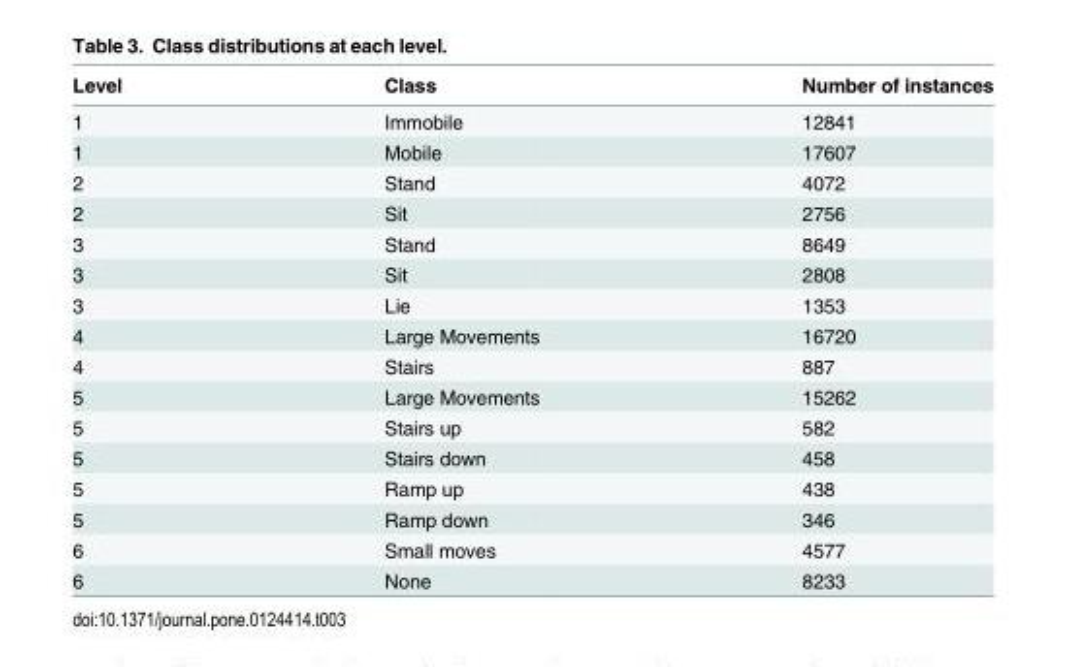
<table><thead><tr><td>Level</td><td>Class</td><td>Number of instances</td></tr></thead><tbody><tr><td>1</td><td>Immobile</td><td>12841</td></tr><tr><td>1</td><td>Mobile</td><td>17607</td></tr><tr><td>2</td><td>Stand</td><td>4072</td></tr><tr><td>2</td><td>Sit</td><td>2756</td></tr><tr><td>3</td><td>Stand</td><td>8649</td></tr><tr><td>3</td><td>Sit</td><td>2808</td></tr><tr><td>3</td><td>Lie</td><td>1353</td></tr><tr><td>4</td><td>Large Movements</td><td>16720</td></tr><tr><td>4</td><td>Stairs</td><td>887</td></tr><tr><td>5</td><td>Large Movements</td><td>15262</td></tr><tr><td>5</td><td>Stairs up</td><td>582</td></tr><tr><td>5</td><td>Stairs down</td><td>458</td></tr><tr><td>5</td><td>Ramp up</td><td>438</td></tr><tr><td>5</td><td>Ramp down</td><td>346</td></tr><tr><td>6</td><td>Small moves</td><td>4577</td></tr><tr><td>6</td><td>None</td><td>8233</td></tr></tbody></table>